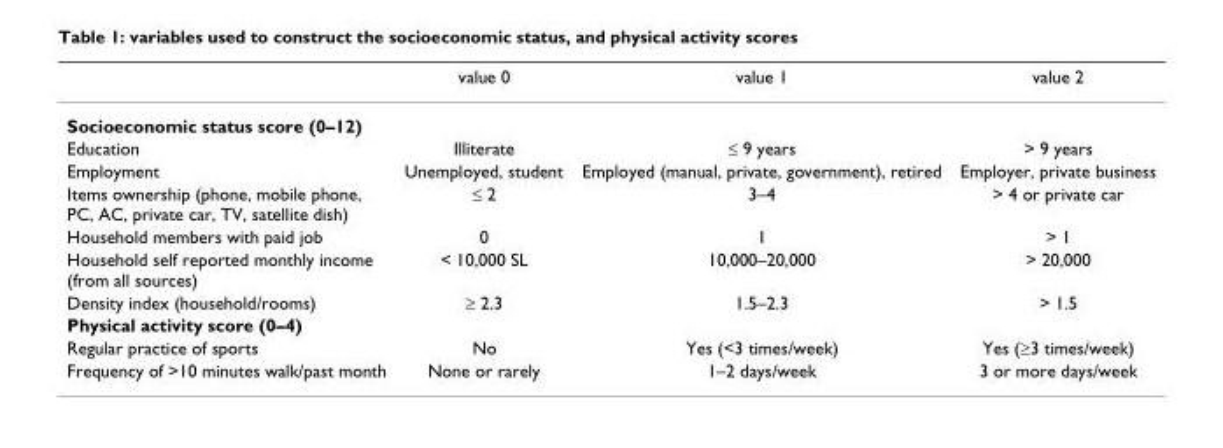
<table><thead><tr><td></td><td>value 0</td><td>value 1</td><td>value 2</td></tr></thead><tbody><tr><td colspan="4">Socioeconomic status score (0–12)</td></tr><tr><td>Education</td><td>Illiterate</td><td>≤ 9 years</td><td>&gt; 9 years</td></tr><tr><td>Employment</td><td>Unemployed, student</td><td>Employed (manual, private, government), retired</td><td>Employer, private business</td></tr><tr><td>Items ownership (phone, mobile phone, PC, AC, private car, TV, satellite dish)</td><td>≤ 2</td><td>3–4</td><td>&gt; 4 or private car</td></tr><tr><td>Household members with paid job</td><td>0</td><td>1</td><td>&gt; 1</td></tr><tr><td>Household self reported monthly income (from all sources)</td><td>&lt; 10,000 SL</td><td>10,000–20,000</td><td>&gt; 20,000</td></tr><tr><td>Density index (household/rooms)</td><td>≥ 2.3</td><td>1.5–2.3</td><td>&gt; 1.5</td></tr><tr><td colspan="4">Physical activity score (0–4)</td></tr><tr><td>Regular practice of sports</td><td>No</td><td>Yes (&lt;3 times/week)</td><td>Yes (≥3 times/week)</td></tr><tr><td>Frequency of &gt;10 minutes walk/past month</td><td>None or rarely</td><td>1–2 days/week</td><td>3 or more days/week</td></tr></tbody></table>